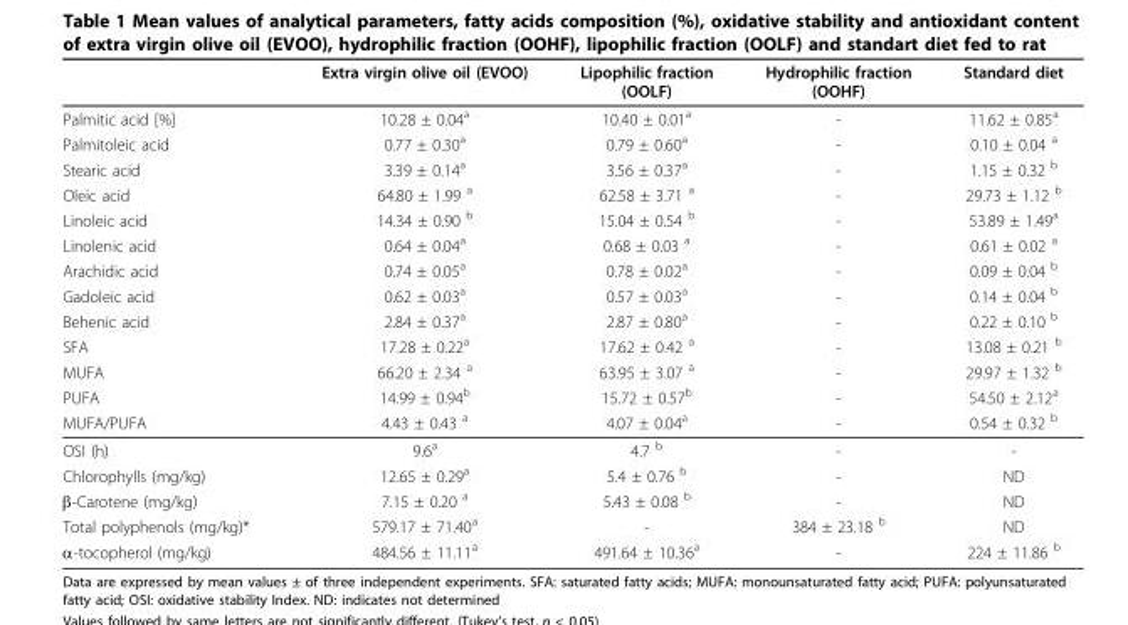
<table><thead><tr><td></td><td>Extra virgin olive oil (EVOO)</td><td>Lipophilic fraction (OOLF)</td><td>Hydrophilic fraction (OOHF)</td><td>Standard diet</td></tr></thead><tbody><tr><td>Palmitic acid [%]</td><td>10.28 ± 0.04<sup>a</sup></td><td>10.40 ± 0.01<sup>a</sup></td><td>-</td><td>11.62 ± 0.85<sup>a</sup></td></tr><tr><td>Palmitoleic acid</td><td>0.77 ± 0.30<sup>a</sup></td><td>0.79 ± 0.60<sup>a</sup></td><td>-</td><td>0.10 ± 0.04 <sup>a</sup></td></tr><tr><td>Stearic acid</td><td>3.39 ± 0.14<sup>a</sup></td><td>3.56 ± 0.37<sup>a</sup></td><td>-</td><td>1.15 ± 0.32 <sup>b</sup></td></tr><tr><td>Oleic acid</td><td>64.80 ± 1.99 <sup>a</sup></td><td>62.58 ± 3.71 <sup>a</sup></td><td>-</td><td>29.73 ± 1.12 <sup>b</sup></td></tr><tr><td>Linoleic acid</td><td>14.34 ± 0.90 <sup>b</sup></td><td>15.04 ± 0.54 <sup>b</sup></td><td>-</td><td>53.89 ± 1.49<sup>a</sup></td></tr><tr><td>Linolenic acid</td><td>0.64 ± 0.04<sup>a</sup></td><td>0.68 ± 0.03 <sup>a</sup></td><td>-</td><td>0.61 ± 0.02 <sup>a</sup></td></tr><tr><td>Arachidic acid</td><td>0.74 ± 0.05<sup>a</sup></td><td>0.78 ± 0.02<sup>a</sup></td><td>-</td><td>0.09 ± 0.04 <sup>b</sup></td></tr><tr><td>Gadoleic acid</td><td>0.62 ± 0.03<sup>a</sup></td><td>0.57 ± 0.03<sup>a</sup></td><td>-</td><td>0.14 ± 0.04 <sup>b</sup></td></tr><tr><td>Behenic acid</td><td>2.84 ± 0.37<sup>a</sup></td><td>2.87 ± 0.80<sup>a</sup></td><td>-</td><td>0.22 ± 0.10 <sup>b</sup></td></tr><tr><td>SFA</td><td>17.28 ± 0.22<sup>a</sup></td><td>17.62 ± 0.42 <sup>a</sup></td><td>-</td><td>13.08 ± 0.21 <sup>b</sup></td></tr><tr><td>MUFA</td><td>66.20 ± 2.34 <sup>a</sup></td><td>63.95 ± 3.07 <sup>a</sup></td><td>-</td><td>29.97 ± 1.32 <sup>b</sup></td></tr><tr><td>PUFA</td><td>14.99 ± 0.94<sup>b</sup></td><td>15.72 ± 0.57<sup>b</sup></td><td>-</td><td>54.50 ± 2.12<sup>a</sup></td></tr><tr><td>MUFA/PUFA</td><td>4.43 ± 0.43 <sup>a</sup></td><td>4.07 ± 0.04<sup>a</sup></td><td>-</td><td>0.54 ± 0.32 <sup>b</sup></td></tr><tr><td>OSI (h)</td><td>9.6<sup>a</sup></td><td>4.7 <sup>b</sup></td><td>-</td><td>-</td></tr><tr><td>Chlorophylls (mg/kg)</td><td>12.65 ± 0.29<sup>a</sup></td><td>5.4 ± 0.76 <sup>b</sup></td><td>-</td><td>ND</td></tr><tr><td>β-Carotene (mg/kg)</td><td>7.15 ± 0.20 <sup>a</sup></td><td>5.43 ± 0.08 <sup>b</sup></td><td>-</td><td>ND</td></tr><tr><td>Total polyphenols (mg/kg)*</td><td>579.17 ± 71.40<sup>a</sup></td><td>-</td><td>384 ± 23.18 <sup>b</sup></td><td>ND</td></tr><tr><td>α-tocopherol (mg/kg)</td><td>484.56 ± 11.11<sup>a</sup></td><td>491.64 ± 10.36<sup>a</sup></td><td>-</td><td>224 ± 11.86 <sup>b</sup></td></tr></tbody></table>